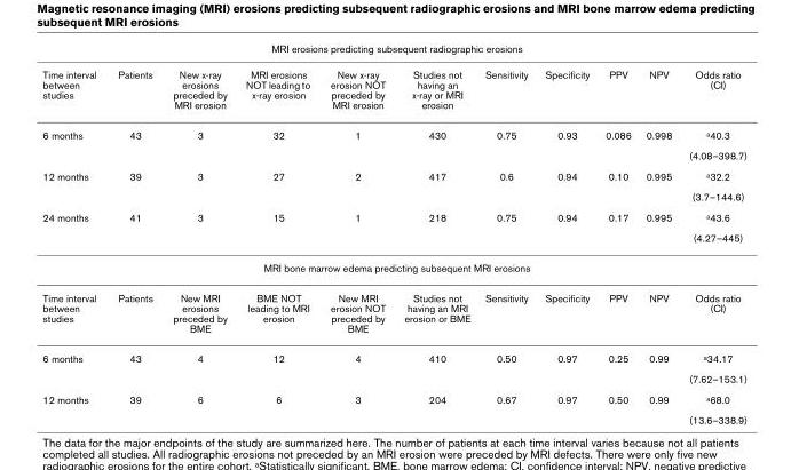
<table><thead><tr><td colspan="11">MRI erosions predicting subsequent radiographic erosions</td></tr><tr><td>Time interval between studies</td><td>Patients</td><td>New x-ray erosions preceded by MRI erosion</td><td>MRI erosions NOT leading to x-ray erosion</td><td>New x-ray erosion NOT preceded by MRI erosion</td><td>Studies not having an x-ray or MRI erosion</td><td>Sensitivity</td><td>Specificity</td><td>PPV</td><td>NPV</td><td>Odds ratio (CI)</td></tr></thead><tbody><tr><td>6 months</td><td>43</td><td>3</td><td>32</td><td>1</td><td>430</td><td>0.75</td><td>0.93</td><td>0.086</td><td>0.998</td><td><sup>a</sup>40.3 (4.08–398.7)</td></tr><tr><td>12 months</td><td>39</td><td>3</td><td>27</td><td>2</td><td>417</td><td>0.6</td><td>0.94</td><td>0.10</td><td>0.995</td><td><sup>a</sup>32.2 (3.7–144.6)</td></tr><tr><td>24 months</td><td>41</td><td>3</td><td>15</td><td>1</td><td>218</td><td>0.75</td><td>0.94</td><td>0.17</td><td>0.995</td><td><sup>a</sup>43.6 (4.27–445)</td></tr><tr><td colspan="11">MRI bone marrow edema predicting subsequent MRI erosions</td></tr><tr><td>Time interval between studies</td><td>Patients</td><td>New MRI erosions preceded by BME</td><td>BME NOT leading to MRI erosion</td><td>New MRI erosion NOT preceded by BME</td><td>Studies not having an MRI erosion or BME</td><td>Sensitivity</td><td>Specificity</td><td>PPV</td><td>NPV</td><td>Odds ratio (CI)</td></tr><tr><td>6 months</td><td>43</td><td>4</td><td>12</td><td>4</td><td>410</td><td>0.50</td><td>0.97</td><td>0.25</td><td>0.99</td><td><sup>a</sup>34.17 (7.62–153.1)</td></tr><tr><td>12 months</td><td>39</td><td>6</td><td>6</td><td>3</td><td>204</td><td>0.67</td><td>0.97</td><td>0.50</td><td>0.99</td><td><sup>a</sup>68.0 (13.6–338.9)</td></tr></tbody></table>